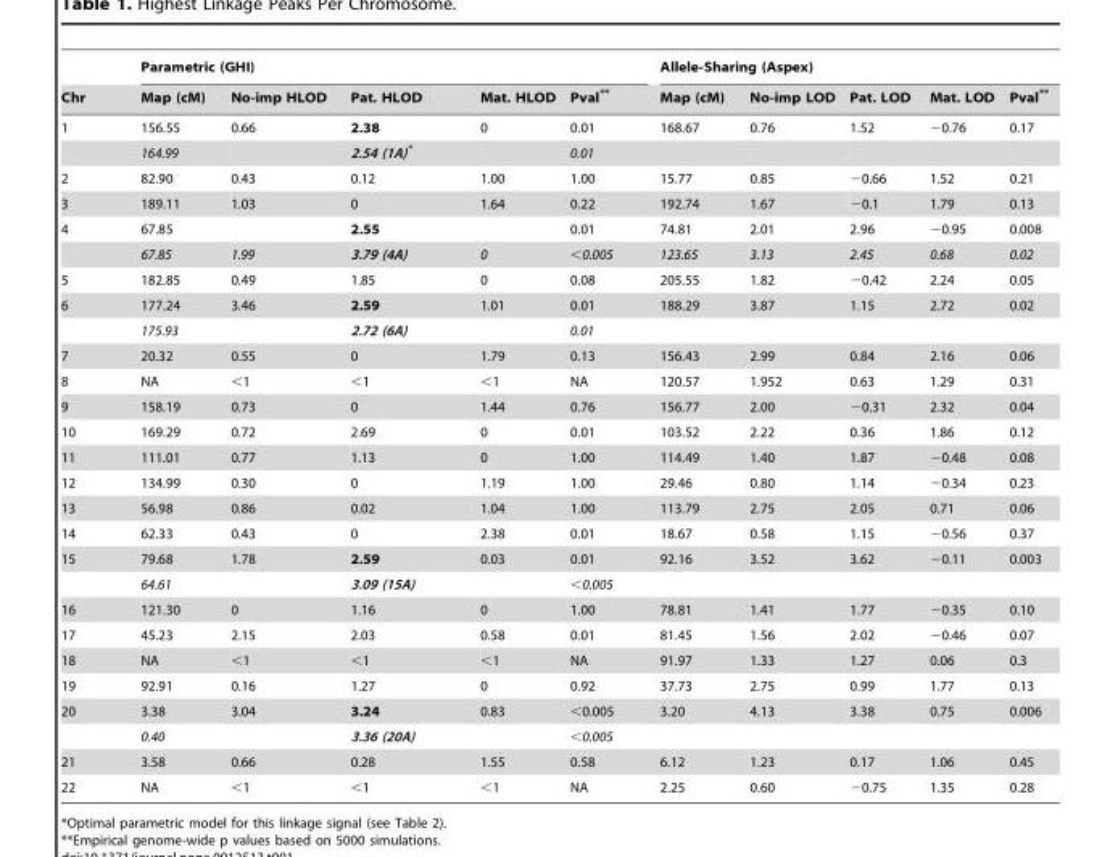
<table><thead><tr><td rowspan="2">Chr</td><td colspan="5">Parametric (GHI)</td><td colspan="5">Allele-Sharing (Aspex)</td></tr><tr><td>Map (cM)</td><td>No-imp HLOD</td><td>Pat. HLOD</td><td>Mat. HLOD</td><td>Pval**</td><td>Map (cM)</td><td>No-imp LOD</td><td>Pat. LOD</td><td>Mat. LOD</td><td>Pval**</td></tr></thead><tbody><tr><td rowspan="2">1</td><td>156.55</td><td>0.66</td><td>2.38</td><td>0</td><td>0.01</td><td>168.67</td><td>0.76</td><td>1.52</td><td>−0.76</td><td>0.17</td></tr><tr><td>164.99</td><td></td><td>2.54 (1A)*</td><td></td><td>0.01</td><td></td><td></td><td></td><td></td><td></td></tr><tr><td>2</td><td>82.90</td><td>0.43</td><td>0.12</td><td>1.00</td><td>1.00</td><td>15.77</td><td>0.85</td><td>−0.66</td><td>1.52</td><td>0.21</td></tr><tr><td>3</td><td>189.11</td><td>1.03</td><td>0</td><td>1.64</td><td>0.22</td><td>192.74</td><td>1.67</td><td>−0.1</td><td>1.79</td><td>0.13</td></tr><tr><td rowspan="2">4</td><td>67.85</td><td></td><td>2.55</td><td></td><td>0.01</td><td>74.81</td><td>2.01</td><td>2.96</td><td>−0.95</td><td>0.008</td></tr><tr><td>67.85</td><td>1.99</td><td>3.79 (4A)</td><td>0</td><td>&lt;0.005</td><td>123.65</td><td>3.13</td><td>2.45</td><td>0.68</td><td>0.02</td></tr><tr><td>5</td><td>182.85</td><td>0.49</td><td>1.85</td><td>0</td><td>0.08</td><td>205.55</td><td>1.82</td><td>−0.42</td><td>2.24</td><td>0.05</td></tr><tr><td rowspan="2">6</td><td>177.24</td><td>3.46</td><td>2.59</td><td>1.01</td><td>0.01</td><td>188.29</td><td>3.87</td><td>1.15</td><td>2.72</td><td>0.02</td></tr><tr><td>175.93</td><td></td><td>2.72 (6A)</td><td></td><td>0.01</td><td></td><td></td><td></td><td></td><td></td></tr><tr><td>7</td><td>20.32</td><td>0.55</td><td>0</td><td>1.79</td><td>0.13</td><td>156.43</td><td>2.99</td><td>0.84</td><td>2.16</td><td>0.06</td></tr><tr><td>8</td><td>NA</td><td>&lt;1</td><td>&lt;1</td><td>&lt;1</td><td>NA</td><td>120.57</td><td>1.952</td><td>0.63</td><td>1.29</td><td>0.31</td></tr><tr><td>9</td><td>158.19</td><td>0.73</td><td>0</td><td>1.44</td><td>0.76</td><td>156.77</td><td>2.00</td><td>−0.31</td><td>2.32</td><td>0.04</td></tr><tr><td>10</td><td>169.29</td><td>0.72</td><td>2.69</td><td>0</td><td>0.01</td><td>103.52</td><td>2.22</td><td>0.36</td><td>1.86</td><td>0.12</td></tr><tr><td>11</td><td>111.01</td><td>0.77</td><td>1.13</td><td>0</td><td>1.00</td><td>114.49</td><td>1.40</td><td>1.87</td><td>−0.48</td><td>0.08</td></tr><tr><td>12</td><td>134.99</td><td>0.30</td><td>0</td><td>1.19</td><td>1.00</td><td>29.46</td><td>0.80</td><td>1.14</td><td>−0.34</td><td>0.23</td></tr><tr><td>13</td><td>56.98</td><td>0.86</td><td>0.02</td><td>1.04</td><td>1.00</td><td>113.79</td><td>2.75</td><td>2.05</td><td>0.71</td><td>0.06</td></tr><tr><td>14</td><td>62.33</td><td>0.43</td><td>0</td><td>2.38</td><td>0.01</td><td>18.67</td><td>0.58</td><td>1.15</td><td>−0.56</td><td>0.37</td></tr><tr><td rowspan="2">15</td><td>79.68</td><td>1.78</td><td>2.59</td><td>0.03</td><td>0.01</td><td>92.16</td><td>3.52</td><td>3.62</td><td>−0.11</td><td>0.003</td></tr><tr><td>64.61</td><td></td><td>3.09 (15A)</td><td></td><td>&lt;0.005</td><td></td><td></td><td></td><td></td><td></td></tr><tr><td>16</td><td>121.30</td><td>0</td><td>1.16</td><td>0</td><td>1.00</td><td>78.81</td><td>1.41</td><td>1.77</td><td>−0.35</td><td>0.10</td></tr><tr><td>17</td><td>45.23</td><td>2.15</td><td>2.03</td><td>0.58</td><td>0.01</td><td>81.45</td><td>1.56</td><td>2.02</td><td>−0.46</td><td>0.07</td></tr><tr><td>18</td><td>NA</td><td>&lt;1</td><td>&lt;1</td><td>&lt;1</td><td>NA</td><td>91.97</td><td>1.33</td><td>1.27</td><td>0.06</td><td>0.3</td></tr><tr><td>19</td><td>92.91</td><td>0.16</td><td>1.27</td><td>0</td><td>0.92</td><td>37.73</td><td>2.75</td><td>0.99</td><td>1.77</td><td>0.13</td></tr><tr><td rowspan="2">20</td><td>3.38</td><td>3.04</td><td>3.24</td><td>0.83</td><td>&lt;0.005</td><td>3.20</td><td>4.13</td><td>3.38</td><td>0.75</td><td>0.006</td></tr><tr><td>0.40</td><td></td><td>3.36 (20A)</td><td></td><td>&lt;0.005</td><td></td><td></td><td></td><td></td><td></td></tr><tr><td>21</td><td>3.58</td><td>0.66</td><td>0.28</td><td>1.55</td><td>0.58</td><td>6.12</td><td>1.23</td><td>0.17</td><td>1.06</td><td>0.45</td></tr><tr><td>22</td><td>NA</td><td>&lt;1</td><td>&lt;1</td><td>&lt;1</td><td>NA</td><td>2.25</td><td>0.60</td><td>−0.75</td><td>1.35</td><td>0.28</td></tr></tbody></table>